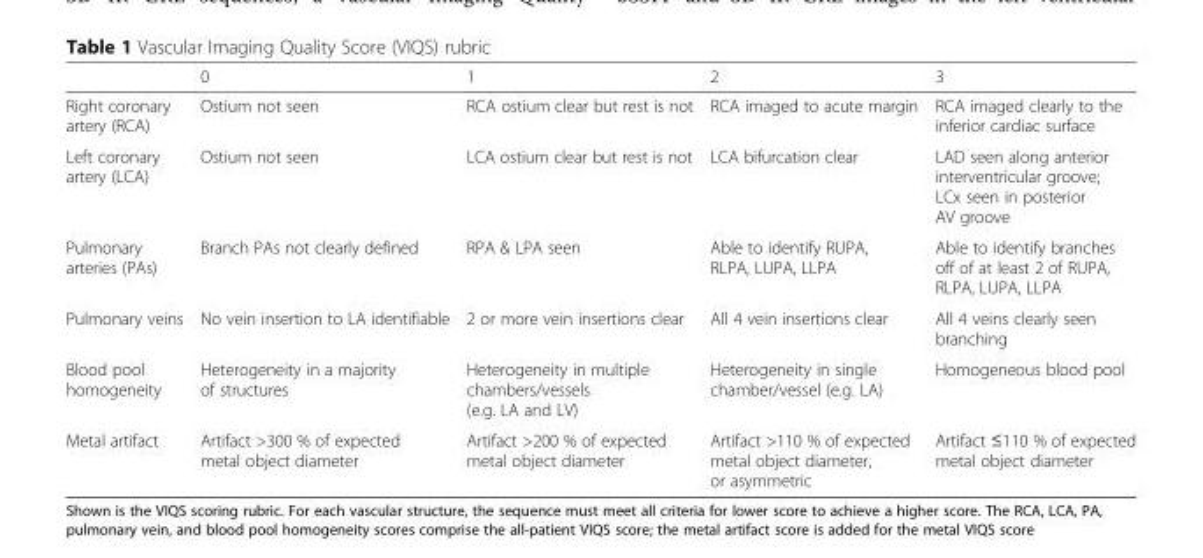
<table><thead><tr><td></td><td>0</td><td>1</td><td>2</td><td>3</td></tr></thead><tbody><tr><td>Right coronary artery (RCA)</td><td>Ostium not seen</td><td>RCA ostium clear but rest is not</td><td>RCA imaged to acute margin</td><td>RCA imaged clearly to the inferior cardiac surface</td></tr><tr><td>Left coronary artery (LCA)</td><td>Ostium not seen</td><td>LCA ostium clear but rest is not</td><td>LCA bifurcation clear</td><td>LAD seen along anterior interventricular groove; LCx seen in posterior AV groove</td></tr><tr><td>Pulmonary arteries (PAs)</td><td>Branch PAs not clearly defined</td><td>RPA &amp; LPA seen</td><td>Able to identify RUPA, RLPA, LUPA, LLPA</td><td>Able to identify branches off of at least 2 of RUPA, RLPA, LUPA, LLPA</td></tr><tr><td>Pulmonary veins</td><td>No vein insertion to LA identifiable</td><td>2 or more vein insertions clear</td><td>All 4 vein insertions clear</td><td>All 4 veins clearly seen branching</td></tr><tr><td>Blood pool homogeneity</td><td>Heterogeneity in a majority of structures</td><td>Heterogeneity in multiple chambers/vessels (e.g. LA and LV)</td><td>Heterogeneity in single chamber/vessel (e.g. LA)</td><td>Homogeneous blood pool</td></tr><tr><td>Metal artifact</td><td>Artifact &gt;300 % of expected metal object diameter</td><td>Artifact &gt;200 % of expected metal object diameter</td><td>Artifact &gt;110 % of expected metal object diameter, or asymmetric</td><td>Artifact ≤110 % of expected metal object diameter</td></tr></tbody></table>